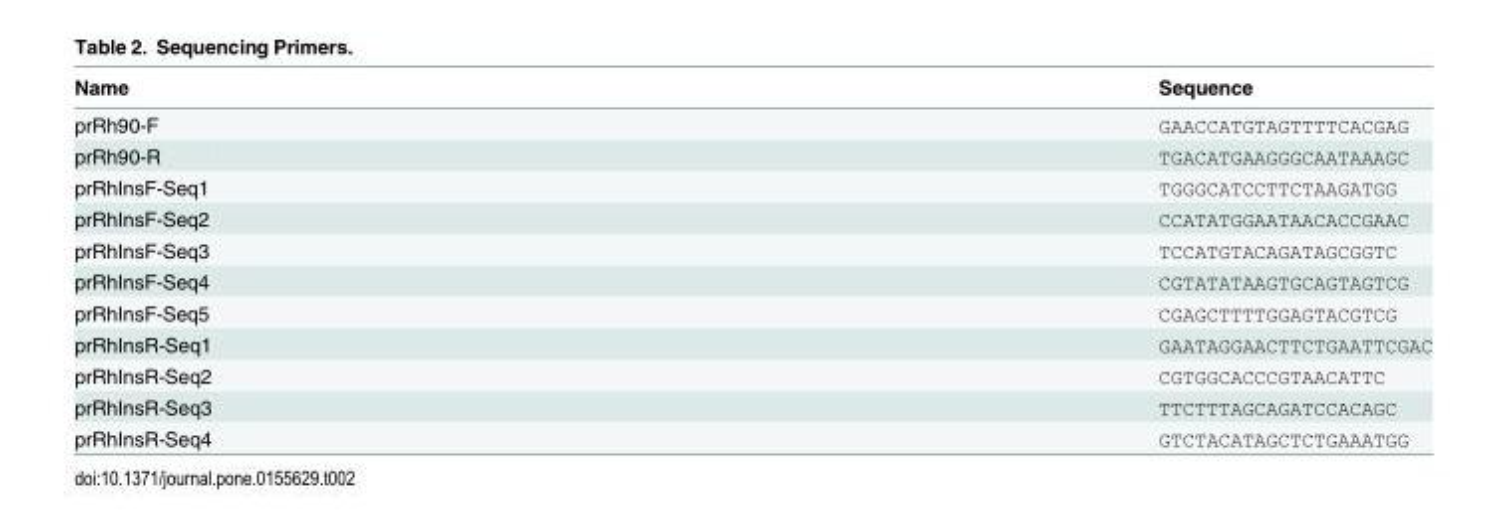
<table><thead><tr><td>Name</td><td>Sequence</td></tr></thead><tbody><tr><td>prRh90-F</td><td>GAACCATGTAGTTTTCACGAG</td></tr><tr><td>prRh90-R</td><td>TGACATGAAGGGCAATAAAGC</td></tr><tr><td>prRhInsF-Seq1</td><td>TGGGCATCCTTCTAAGATGG</td></tr><tr><td>prRhInsF-Seq2</td><td>CCATATGGAATAACACCGAAC</td></tr><tr><td>prRhInsF-Seq3</td><td>TCCATGTACAGATAGCGGTC</td></tr><tr><td>prRhInsF-Seq4</td><td>CGTATATAAGTGCAGTAGTCG</td></tr><tr><td>prRhInsF-Seq5</td><td>CGAGCTTTTGGAGTACGTCG</td></tr><tr><td>prRhInsR-Seq1</td><td>GAATAGGAACTTCTGAATTCGAC</td></tr><tr><td>prRhInsR-Seq2</td><td>CGTGGCACCCGTAACATTC</td></tr><tr><td>prRhInsR-Seq3</td><td>TTCTTTAGCAGATCCACAGC</td></tr><tr><td>prRhInsR-Seq4</td><td>GTCTACATAGCTCTGAAATGG</td></tr></tbody></table>